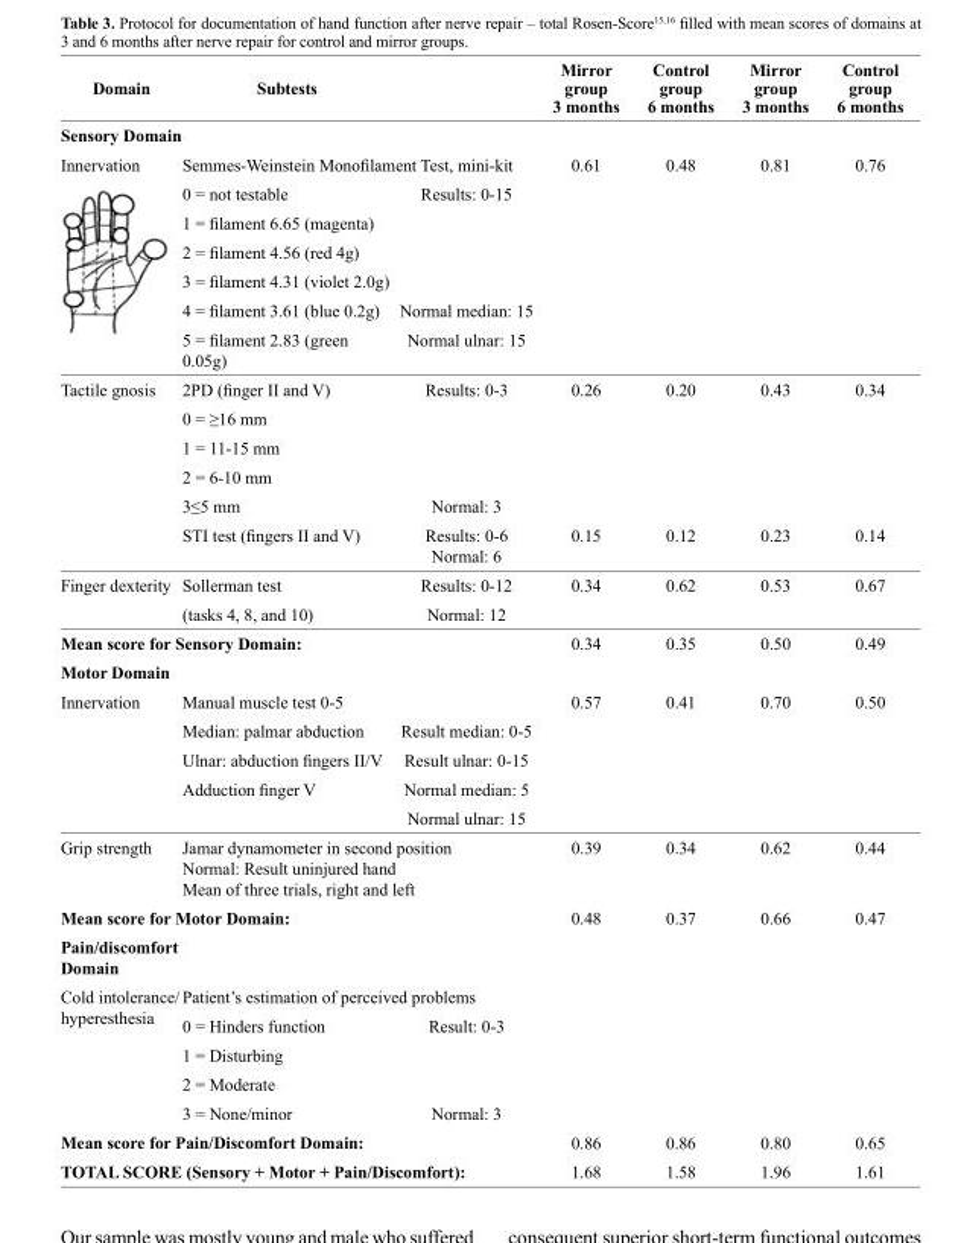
<table><thead><tr><td>Domain</td><td>Subtests</td><td></td><td>Mirror group 3 months</td><td>Control group 6 months</td><td>Mirror group 3 months</td><td>Control group 6 months</td></tr></thead><tbody><tr><td colspan="7">Sensory Domain</td></tr><tr><td rowspan="7">Innervation</td><td colspan="2">Semmes-Weinstein Monofilament Test, mini-kit</td><td>0.61</td><td>0.48</td><td>0.81</td><td>0.76</td></tr><tr><td>0 = not testable</td><td>Results: 0-15</td><td></td><td></td><td></td><td></td></tr><tr><td>1 = filament 6.65 (magenta)</td><td></td><td></td><td></td><td></td><td></td></tr><tr><td>2 = filament 4.56 (red 4g)</td><td></td><td></td><td></td><td></td><td></td></tr><tr><td>3 = filament 4.31 (violet 2.0g)</td><td></td><td></td><td></td><td></td><td></td></tr><tr><td>4 = filament 3.61 (blue 0.2g)</td><td>Normal median: 15</td><td></td><td></td><td></td><td></td></tr><tr><td>5 = filament 2.83 (green 0.05g)</td><td>Normal ulnar: 15</td><td></td><td></td><td></td><td></td></tr><tr><td rowspan="6">Tactile gnosis</td><td>2PD (finger II and V)</td><td>Results: 0-3</td><td>0.26</td><td>0.20</td><td>0.43</td><td>0.34</td></tr><tr><td>0 = ≥16 mm</td><td></td><td></td><td></td><td></td><td></td></tr><tr><td>1 = 11-15 mm</td><td></td><td></td><td></td><td></td><td></td></tr><tr><td>2 = 6-10 mm</td><td></td><td></td><td></td><td></td><td></td></tr><tr><td>3≤5 mm</td><td>Normal: 3</td><td></td><td></td><td></td><td></td></tr><tr><td>STI test (fingers II and V)</td><td>Results: 0-6 Normal: 6</td><td>0.15</td><td>0.12</td><td>0.23</td><td>0.14</td></tr><tr><td rowspan="2">Finger dexterity</td><td>Sollerman test</td><td>Results: 0-12</td><td>0.34</td><td>0.62</td><td>0.53</td><td>0.67</td></tr><tr><td>(tasks 4, 8, and 10)</td><td>Normal: 12</td><td></td><td></td><td></td><td></td></tr><tr><td colspan="3">Mean score for Sensory Domain:</td><td>0.34</td><td>0.35</td><td>0.50</td><td>0.49</td></tr><tr><td colspan="7">Motor Domain</td></tr><tr><td rowspan="5">Innervation</td><td>Manual muscle test 0-5</td><td></td><td>0.57</td><td>0.41</td><td>0.70</td><td>0.50</td></tr><tr><td>Median: palmar abduction</td><td>Result median: 0-5</td><td></td><td></td><td></td><td></td></tr><tr><td>Ulnar: abduction fingers II/V</td><td>Result ulnar: 0-15</td><td></td><td></td><td></td><td></td></tr><tr><td>Adduction finger V</td><td>Normal median: 5</td><td></td><td></td><td></td><td></td></tr><tr><td></td><td>Normal ulnar: 15</td><td></td><td></td><td></td><td></td></tr><tr><td>Grip strength</td><td colspan="2">Jamar dynamometer in second position Normal: Result uninjured hand Mean of three trials, right and left</td><td>0.39</td><td>0.34</td><td>0.62</td><td>0.44</td></tr><tr><td colspan="3">Mean score for Motor Domain:</td><td>0.48</td><td>0.37</td><td>0.66</td><td>0.47</td></tr><tr><td colspan="7">Pain/discomfort Domain</td></tr><tr><td rowspan="5">Cold intolerance/ hyperesthesia</td><td colspan="2">Patient’s estimation of perceived problems</td><td></td><td></td><td></td><td></td></tr><tr><td>0 = Hinders function</td><td>Result: 0-3</td><td></td><td></td><td></td><td></td></tr><tr><td>1 = Disturbing</td><td></td><td></td><td></td><td></td><td></td></tr><tr><td>2 = Moderate</td><td></td><td></td><td></td><td></td><td></td></tr><tr><td>3 = None/minor</td><td>Normal: 3</td><td></td><td></td><td></td><td></td></tr><tr><td colspan="3">Mean score for Pain/Discomfort Domain:</td><td>0.86</td><td>0.86</td><td>0.80</td><td>0.65</td></tr><tr><td colspan="3">TOTAL SCORE (Sensory + Motor + Pain/Discomfort):</td><td>1.68</td><td>1.58</td><td>1.96</td><td>1.61</td></tr></tbody></table>